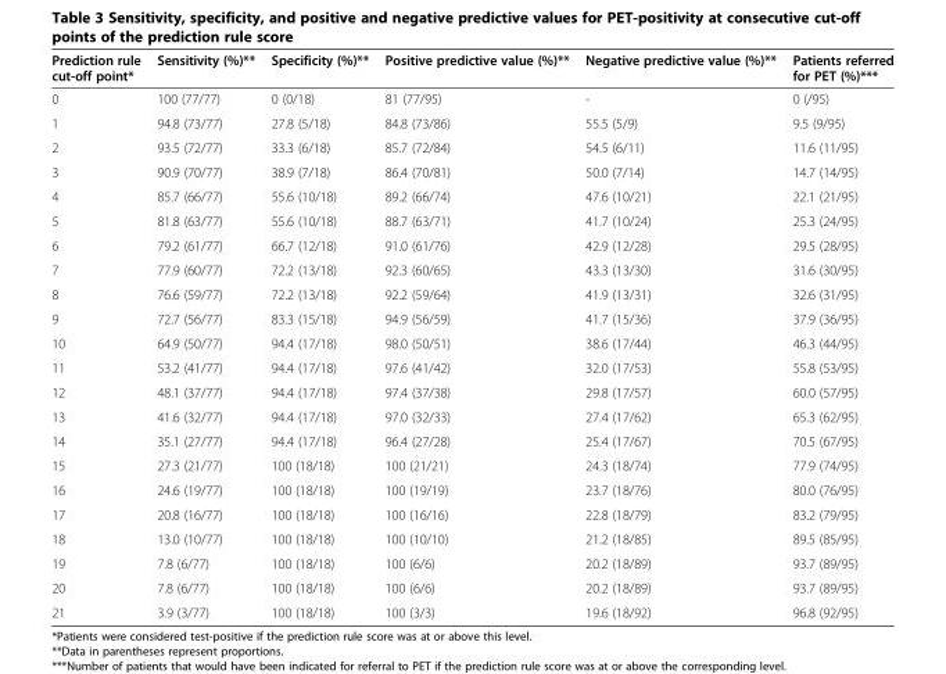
<table><thead><tr><td>Prediction rule cut-off point*</td><td>Sensitivity (%)**</td><td>Specificity (%)**</td><td>Positive predictive value (%)**</td><td>Negative predictive value (%)**</td><td>Patients referred for PET (%)***</td></tr></thead><tbody><tr><td>0</td><td>100 (77/77)</td><td>0 (0/18)</td><td>81 (77/95)</td><td>-</td><td>0 (/95)</td></tr><tr><td>1</td><td>94.8 (73/77)</td><td>27.8 (5/18)</td><td>84.8 (73/86)</td><td>55.5 (5/9)</td><td>9.5 (9/95)</td></tr><tr><td>2</td><td>93.5 (72/77)</td><td>33.3 (6/18)</td><td>85.7 (72/84)</td><td>54.5 (6/11)</td><td>11.6 (11/95)</td></tr><tr><td>3</td><td>90.9 (70/77)</td><td>38.9 (7/18)</td><td>86.4 (70/81)</td><td>50.0 (7/14)</td><td>14.7 (14/95)</td></tr><tr><td>4</td><td>85.7 (66/77)</td><td>55.6 (10/18)</td><td>89.2 (66/74)</td><td>47.6 (10/21)</td><td>22.1 (21/95)</td></tr><tr><td>5</td><td>81.8 (63/77)</td><td>55.6 (10/18)</td><td>88.7 (63/71)</td><td>41.7 (10/24)</td><td>25.3 (24/95)</td></tr><tr><td>6</td><td>79.2 (61/77)</td><td>66.7 (12/18)</td><td>91.0 (61/76)</td><td>42.9 (12/28)</td><td>29.5 (28/95)</td></tr><tr><td>7</td><td>77.9 (60/77)</td><td>72.2 (13/18)</td><td>92.3 (60/65)</td><td>43.3 (13/30)</td><td>31.6 (30/95)</td></tr><tr><td>8</td><td>76.6 (59/77)</td><td>72.2 (13/18)</td><td>92.2 (59/64)</td><td>41.9 (13/31)</td><td>32.6 (31/95)</td></tr><tr><td>9</td><td>72.7 (56/77)</td><td>83.3 (15/18)</td><td>94.9 (56/59)</td><td>41.7 (15/36)</td><td>37.9 (36/95)</td></tr><tr><td>10</td><td>64.9 (50/77)</td><td>94.4 (17/18)</td><td>98.0 (50/51)</td><td>38.6 (17/44)</td><td>46.3 (44/95)</td></tr><tr><td>11</td><td>53.2 (41/77)</td><td>94.4 (17/18)</td><td>97.6 (41/42)</td><td>32.0 (17/53)</td><td>55.8 (53/95)</td></tr><tr><td>12</td><td>48.1 (37/77)</td><td>94.4 (17/18)</td><td>97.4 (37/38)</td><td>29.8 (17/57)</td><td>60.0 (57/95)</td></tr><tr><td>13</td><td>41.6 (32/77)</td><td>94.4 (17/18)</td><td>97.0 (32/33)</td><td>27.4 (17/62)</td><td>65.3 (62/95)</td></tr><tr><td>14</td><td>35.1 (27/77)</td><td>94.4 (17/18)</td><td>96.4 (27/28)</td><td>25.4 (17/67)</td><td>70.5 (67/95)</td></tr><tr><td>15</td><td>27.3 (21/77)</td><td>100 (18/18)</td><td>100 (21/21)</td><td>24.3 (18/74)</td><td>77.9 (74/95)</td></tr><tr><td>16</td><td>24.6 (19/77)</td><td>100 (18/18)</td><td>100 (19/19)</td><td>23.7 (18/76)</td><td>80.0 (76/95)</td></tr><tr><td>17</td><td>20.8 (16/77)</td><td>100 (18/18)</td><td>100 (16/16)</td><td>22.8 (18/79)</td><td>83.2 (79/95)</td></tr><tr><td>18</td><td>13.0 (10/77)</td><td>100 (18/18)</td><td>100 (10/10)</td><td>21.2 (18/85)</td><td>89.5 (85/95)</td></tr><tr><td>19</td><td>7.8 (6/77)</td><td>100 (18/18)</td><td>100 (6/6)</td><td>20.2 (18/89)</td><td>93.7 (89/95)</td></tr><tr><td>20</td><td>7.8 (6/77)</td><td>100 (18/18)</td><td>100 (6/6)</td><td>20.2 (18/89)</td><td>93.7 (89/95)</td></tr><tr><td>21</td><td>3.9 (3/77)</td><td>100 (18/18)</td><td>100 (3/3)</td><td>19.6 (18/92)</td><td>96.8 (92/95)</td></tr></tbody></table>